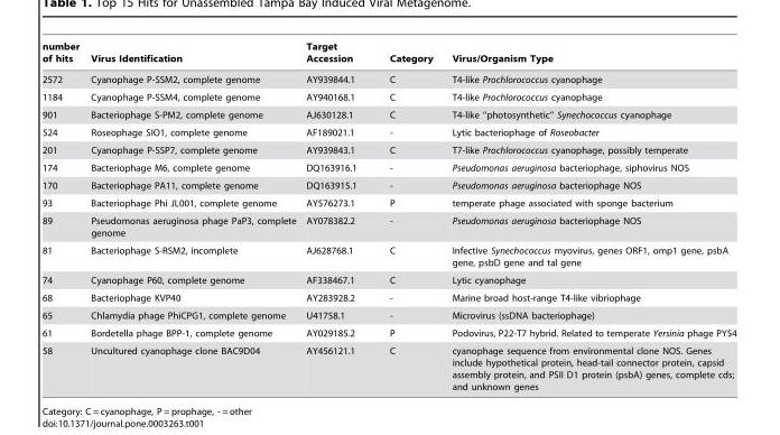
<table><thead><tr><td>number of hits</td><td>Virus Identification</td><td>Target Accession</td><td>Category</td><td>Virus/Organism Type</td></tr></thead><tbody><tr><td>2572</td><td>Cyanophage P-SSM2, complete genome</td><td>AY939844.1</td><td>C</td><td>T4-like Prochlorococcus cyanophage</td></tr><tr><td>1184</td><td>Cyanophage P-SSM4, complete genome</td><td>AY940168.1</td><td>C</td><td>T4-like Prochlorococcus cyanophage</td></tr><tr><td>901</td><td>Bacteriophage S-PM2, complete genome</td><td>AJ630128.1</td><td>C</td><td>T4-like ‘‘photosynthetic’’ Synechococcus cyanophage</td></tr><tr><td>524</td><td>Roseophage SIO1, complete genome</td><td>AF189021.1</td><td>-</td><td>Lytic bacteriophage of Roseobacter</td></tr><tr><td>201</td><td>Cyanophage P-SSP7, complete genome</td><td>AY939843.1</td><td>C</td><td>T7-like Prochlorococcus cyanophage, possibly temperate</td></tr><tr><td>174</td><td>Bacteriophage M6, complete genome</td><td>DQ163916.1</td><td>-</td><td>Pseudomonas aeruginosa bacteriophage, siphovirus NOS</td></tr><tr><td>170</td><td>Bacteriophage PA11, complete genome</td><td>DQ163915.1</td><td>-</td><td>Pseudomonas aeruginosa bacteriophage NOS</td></tr><tr><td>93</td><td>Bacteriophage Phi JL001, complete genome</td><td>AY576273.1</td><td>P</td><td>temperate phage associated with sponge bacterium</td></tr><tr><td>89</td><td>Pseudomonas aeruginosa phage PaP3, complete genome</td><td>AY078382.2</td><td>-</td><td>Pseudomonas aeruginosa bacteriophage NOS</td></tr><tr><td>81</td><td>Bacteriophage S-RSM2, incomplete</td><td>AJ628768.1</td><td>C</td><td>Infective Synechococcus myovirus, genes ORF1, omp1 gene, psbA gene, psbD gene and tal gene</td></tr><tr><td>74</td><td>Cyanophage P60, complete genome</td><td>AF338467.1</td><td>C</td><td>Lytic cyanophage</td></tr><tr><td>68</td><td>Bacteriophage KVP40</td><td>AY283928.2</td><td>-</td><td>Marine broad host-range T4-like vibriophage</td></tr><tr><td>65</td><td>Chlamydia phage PhiCPG1, complete genome</td><td>U41758.1</td><td>-</td><td>Microvirus (ssDNA bacteriophage)</td></tr><tr><td>61</td><td>Bordetella phage BPP-1, complete genome</td><td>AY029185.2</td><td>P</td><td>Podovirus, P22-T7 hybrid. Related to temperate Yersinia phage PY54</td></tr><tr><td>58</td><td>Uncultured cyanophage clone BAC9D04</td><td>AY456121.1</td><td>C</td><td>cyanophage sequence from environmental clone NOS. Genes include hypothetical protein, head-tail connector protein, capsid assembly protein, and PSII D1 protein (psbA) genes, complete cds; and unknown genes</td></tr></tbody></table>